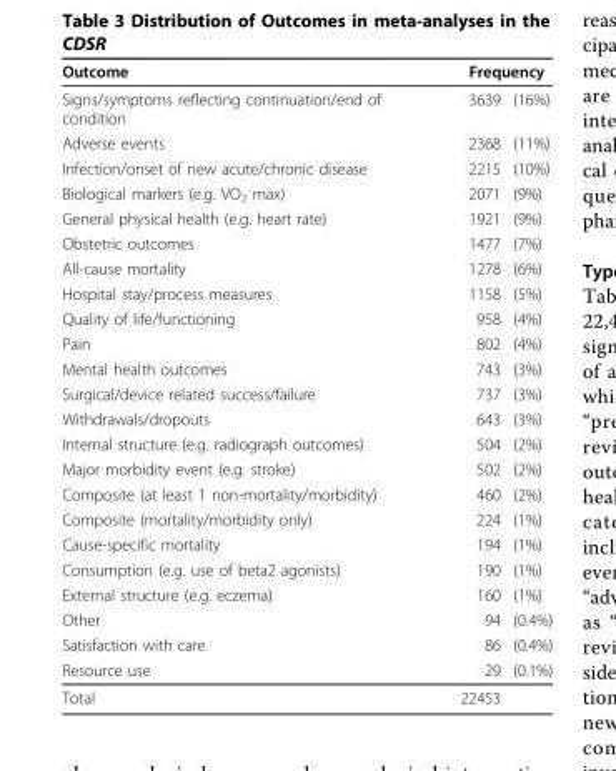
<table><thead><tr><td rowspan="2">Outcome Signs/symptoms reflecting continuation/end of condition</td><td colspan="2">Frequency</td></tr><tr><td>3639</td><td>(16%)</td></tr></thead><tbody><tr><td>Adverse events</td><td>2368</td><td>(11%)</td></tr><tr><td>Infection/onset of new acute/chronic disease</td><td>2215</td><td>(10%)</td></tr><tr><td>Biological markers (e.g. VO<sub>2</sub> max)</td><td>2071</td><td>(9%)</td></tr><tr><td>General physical health (e.g. heart rate)</td><td>1921</td><td>(9%)</td></tr><tr><td>Obstetric outcomes</td><td>1477</td><td>(7%)</td></tr><tr><td>All-cause mortality</td><td>1278</td><td>(6%)</td></tr><tr><td>Hospital stay/process measures</td><td>1158</td><td>(5%)</td></tr><tr><td>Quality of life/functioning</td><td>958</td><td>(4%)</td></tr><tr><td>Pain</td><td>802</td><td>(4%)</td></tr><tr><td>Mental health outcomes</td><td>743</td><td>(3%)</td></tr><tr><td>Surgical/device related success/failure</td><td>737</td><td>(3%)</td></tr><tr><td>Withdrawals/dropouts</td><td>643</td><td>(3%)</td></tr><tr><td>Internal structure (e.g. radiograph outcomes)</td><td>504</td><td>(2%)</td></tr><tr><td>Major morbidity event (e.g. stroke)</td><td>502</td><td>(2%)</td></tr><tr><td>Composite (at least 1 non-mortality/morbidity)</td><td>460</td><td>(2%)</td></tr><tr><td>Composite (mortality/morbidity only)</td><td>224</td><td>(1%)</td></tr><tr><td>Cause-specific mortality</td><td>194</td><td>(1%)</td></tr><tr><td>Consumption (e.g. use of beta2 agonists)</td><td>190</td><td>(1%)</td></tr><tr><td>External structure (e.g. eczema)</td><td>160</td><td>(1%)</td></tr><tr><td>Other</td><td>94</td><td>(0.4%)</td></tr><tr><td>Satisfaction with care</td><td>86</td><td>(0.4%)</td></tr><tr><td>Resource use</td><td>29</td><td>(0.1%)</td></tr><tr><td>Total</td><td>22453</td><td></td></tr></tbody></table>